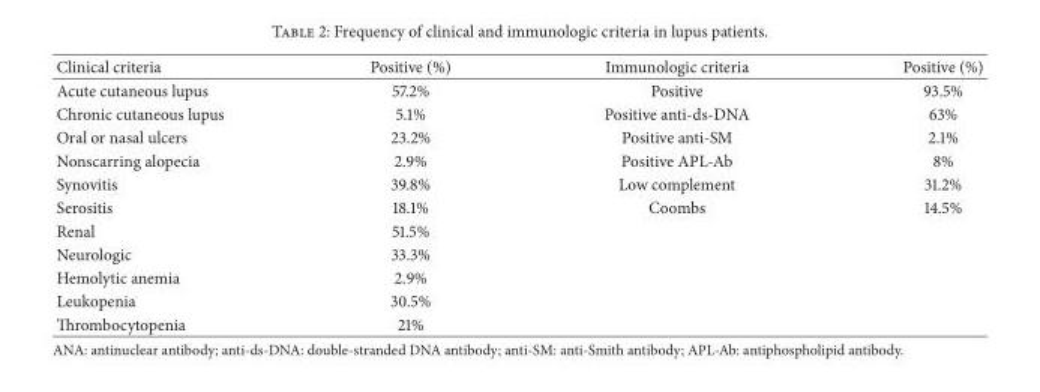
<table><thead><tr><td>Clinical criteria</td><td>Positive (%)</td><td>Immunologic criteria</td><td>Positive (%)</td></tr></thead><tbody><tr><td>Acute cutaneous lupus</td><td>57.2%</td><td>Positive</td><td>93.5%</td></tr><tr><td>Chronic cutaneous lupus</td><td>5.1%</td><td>Positive anti-ds-DNA</td><td>63%</td></tr><tr><td>Oral or nasal ulcers</td><td>23.2%</td><td>Positive anti-SM</td><td>2.1%</td></tr><tr><td>Nonscarring alopecia</td><td>2.9%</td><td>Positive APL-Ab</td><td>8%</td></tr><tr><td>Synovitis</td><td>39.8%</td><td>Low complement</td><td>31.2%</td></tr><tr><td>Serositis</td><td>18.1%</td><td>Coombs</td><td>14.5%</td></tr><tr><td>Renal</td><td>51.5%</td><td></td><td></td></tr><tr><td>Neurologic</td><td>33.3%</td><td></td><td></td></tr><tr><td>Hemolytic anemia</td><td>2.9%</td><td></td><td></td></tr><tr><td>Leukopenia</td><td>30.5%</td><td></td><td></td></tr><tr><td>Thrombocytopenia</td><td>21%</td><td></td><td></td></tr></tbody></table>